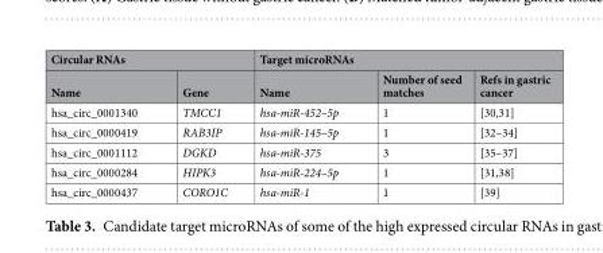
<table><thead><tr><td colspan="2">Circular RNAs</td><td colspan="3">Target microRNAs</td></tr><tr><td>Name</td><td>Gene</td><td>Name</td><td>Number of seed matches</td><td>Refs in gastric cancer</td></tr></thead><tbody><tr><td>hsa_circ_0001340</td><td>TMCC1</td><td>hsa-miR-452–5p</td><td>1</td><td>[30,31]</td></tr><tr><td>hsa_circ_0000419</td><td>RAB3IP</td><td>hsa-miR-145–5p</td><td>1</td><td>[32–34]</td></tr><tr><td>hsa_circ_0001112</td><td>DGKD</td><td>hsa-miR-375</td><td>3</td><td>[35–37]</td></tr><tr><td>hsa_circ_0000284</td><td>HIPK3</td><td>hsa-miR-224–5p</td><td>1</td><td>[31,38]</td></tr><tr><td>hsa_circ_0000437</td><td>CORO1C</td><td>hsa-miR-1</td><td>1</td><td>[39]</td></tr></tbody></table>